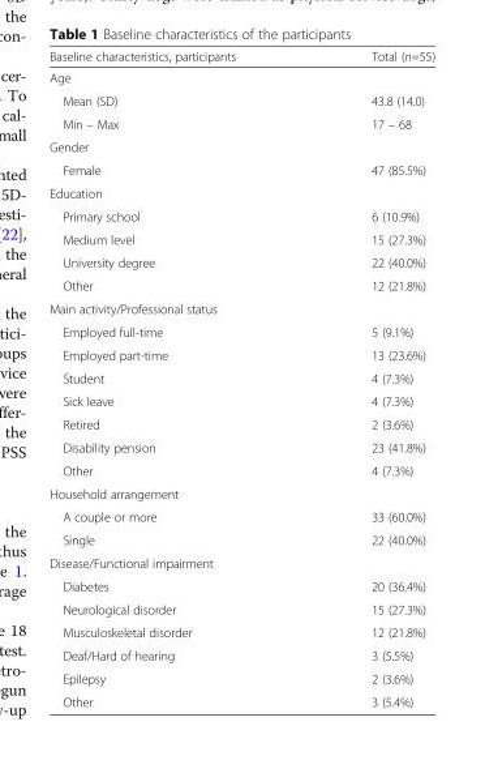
<table><thead><tr><td>Baseline characteristics, participants</td><td>Total (n=55)</td></tr></thead><tbody><tr><td colspan="2">Age</td></tr><tr><td>Mean (SD)</td><td>43.8 (14.0)</td></tr><tr><td>Min – Max</td><td>17 – 68</td></tr><tr><td colspan="2">Gender</td></tr><tr><td>Female</td><td>47 (85.5%)</td></tr><tr><td colspan="2">Education</td></tr><tr><td>Primary school</td><td>6 (10.9%)</td></tr><tr><td>Medium level</td><td>15 (27.3%)</td></tr><tr><td>University degree</td><td>22 (40.0%)</td></tr><tr><td>Other</td><td>12 (21.8%)</td></tr><tr><td colspan="2">Main activity/Professional status</td></tr><tr><td>Employed full-time</td><td>5 (9.1%)</td></tr><tr><td>Employed part-time</td><td>13 (23.6%)</td></tr><tr><td>Student</td><td>4 (7.3%)</td></tr><tr><td>Sick leave</td><td>4 (7.3%)</td></tr><tr><td>Retired</td><td>2 (3.6%)</td></tr><tr><td>Disability pension</td><td>23 (41.8%)</td></tr><tr><td>Other</td><td>4 (7.3%)</td></tr><tr><td colspan="2">Household arrangement</td></tr><tr><td>A couple or more</td><td>33 (60.0%)</td></tr><tr><td>Single</td><td>22 (40.0%)</td></tr><tr><td colspan="2">Disease/Functional impairment</td></tr><tr><td>Diabetes</td><td>20 (36.4%)</td></tr><tr><td>Neurological disorder</td><td>15 (27.3%)</td></tr><tr><td>Musculoskeletal disorder</td><td>12 (21.8%)</td></tr><tr><td>Deaf/Hard of hearing</td><td>3 (5.5%)</td></tr><tr><td>Epilepsy</td><td>2 (3.6%)</td></tr><tr><td>Other</td><td>3 (5.4%)</td></tr></tbody></table>